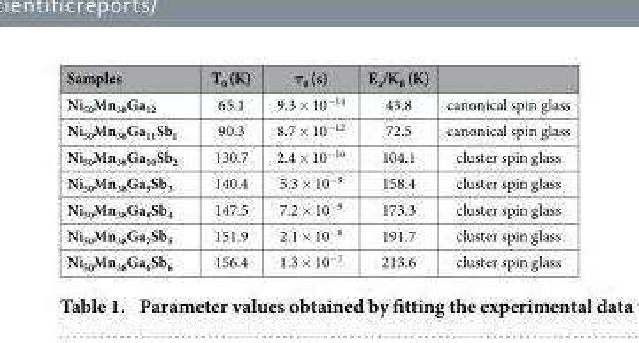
<table><thead><tr><td>Samples</td><td>T<sub>0</sub> (K)</td><td>τ<sub>0</sub> (s)</td><td>E<sub>a</sub>/K<sub>B</sub> (K)</td><td></td></tr></thead><tbody><tr><td>Ni<sub>50</sub>Mn<sub>38</sub>Ga<sub>12</sub></td><td>65.1</td><td>9.3 × 10<sup>−14</sup></td><td>43.8</td><td>canonical spin glass</td></tr><tr><td>Ni<sub>50</sub>Mn<sub>38</sub>Ga<sub>11</sub>Sb<sub>1</sub></td><td>90.3</td><td>8.7 × 10<sup>−12</sup></td><td>72.5</td><td>canonical spin glass</td></tr><tr><td>Ni<sub>50</sub>Mn<sub>38</sub>Ga<sub>10</sub>Sb<sub>2</sub></td><td>130.7</td><td>2.4 × 10<sup>−10</sup></td><td>104.1</td><td>cluster spin glass</td></tr><tr><td>Ni<sub>50</sub>Mn<sub>38</sub>Ga<sub>9</sub>Sb<sub>3</sub></td><td>140.4</td><td>5.3 × 10<sup>−9</sup></td><td>158.4</td><td>cluster spin glass</td></tr><tr><td>Ni<sub>50</sub>Mn<sub>38</sub>Ga<sub>8</sub>Sb<sub>4</sub></td><td>147.5</td><td>7.2 × 10<sup>−9</sup></td><td>173.3</td><td>cluster spin glass</td></tr><tr><td>Ni<sub>50</sub>Mn<sub>38</sub>Ga<sub>7</sub>Sb<sub>5</sub></td><td>151.9</td><td>2.1 × 10<sup>−8</sup></td><td>191.7</td><td>cluster spin glass</td></tr><tr><td>Ni<sub>50</sub>Mn<sub>38</sub>Ga<sub>6</sub>Sb<sub>6</sub></td><td>156.4</td><td>1.3 × 10<sup>−7</sup></td><td>213.6</td><td>cluster spin glass</td></tr></tbody></table>